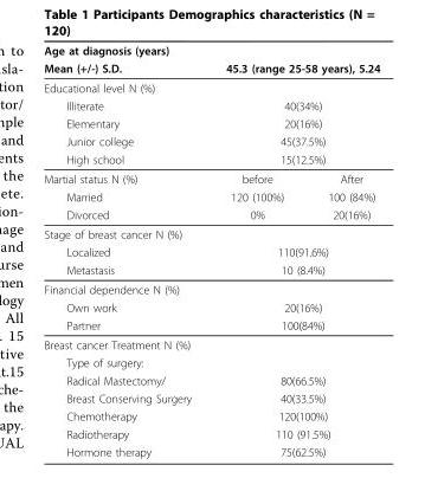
<table><thead><tr><td rowspan="2">Age at diagnosis (years) Mean (+/-) S.D.</td><td></td><td></td></tr><tr><td colspan="2">45.3 (range 25-58 years), 5.24</td></tr></thead><tbody><tr><td colspan="3">Educational level N (%)</td></tr><tr><td>Illiterate</td><td colspan="2">40(34%)</td></tr><tr><td>Elementary</td><td colspan="2">20(16%)</td></tr><tr><td>Junior college</td><td colspan="2">45(37.5%)</td></tr><tr><td>High school</td><td colspan="2">15(12.5%)</td></tr><tr><td>Martial status N (%)</td><td>before</td><td>After</td></tr><tr><td>Married</td><td>120 (100%)</td><td>100 (84%)</td></tr><tr><td>Divorced</td><td>0%</td><td>20(16%)</td></tr><tr><td colspan="3">Stage of breast cancer N (%)</td></tr><tr><td>Localized</td><td colspan="2">110(91.6%)</td></tr><tr><td>Metastasis</td><td colspan="2">10 (8.4%)</td></tr><tr><td colspan="3">Financial dependence N (%)</td></tr><tr><td>Own work</td><td colspan="2">20(16%)</td></tr><tr><td>Partner</td><td colspan="2">100(84%)</td></tr><tr><td colspan="3">Breast cancer Treatment N (%)</td></tr><tr><td colspan="3">Type of surgery:</td></tr><tr><td>Radical Mastectomy/</td><td colspan="2">80(66.5%)</td></tr><tr><td>Breast Conserving Surgery</td><td colspan="2">40(33.5%)</td></tr><tr><td>Chemotherapy</td><td colspan="2">120(100%)</td></tr><tr><td>Radiotherapy</td><td colspan="2">110 (91.5%)</td></tr><tr><td>Hormone therapy</td><td colspan="2">75(62.5%)</td></tr></tbody></table>